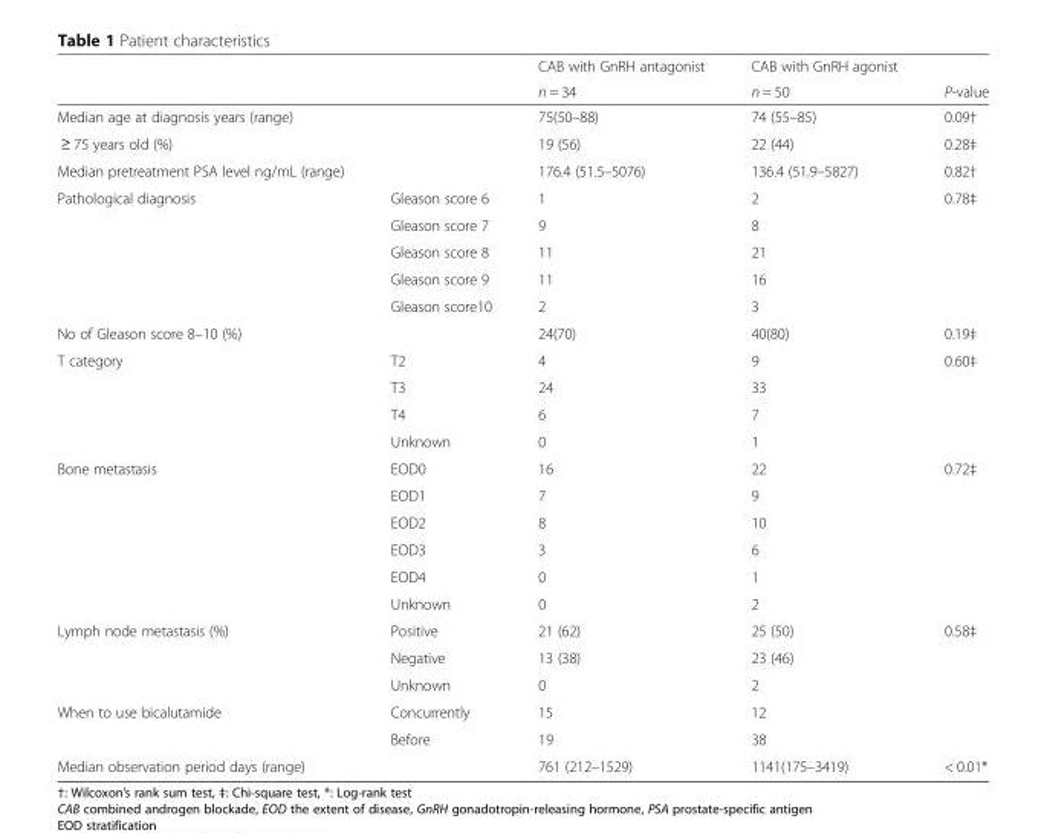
<table><thead><tr><td rowspan="2"></td><td rowspan="2"></td><td rowspan="2">CAB with GnRH antagonist n = 34</td><td rowspan="2">CAB with GnRH agonist n = 50</td><td rowspan="2">P-value</td></tr><tr></tr></thead><tbody><tr><td colspan="2">Median age at diagnosis years (range)</td><td>75(50–88)</td><td>74 (55–85)</td><td>0.09†</td></tr><tr><td>≥ 75 years old (%)</td><td></td><td>19 (56)</td><td>22 (44)</td><td>0.28‡</td></tr><tr><td>Median pretreatment PSA level ng/mL (range)</td><td></td><td>176.4 (51.5–5076)</td><td>136.4 (51.9–5827)</td><td>0.82†</td></tr><tr><td rowspan="5">Pathological diagnosis</td><td>Gleason score 6</td><td>1</td><td>2</td><td rowspan="5">0.78‡</td></tr><tr><td>Gleason score 7</td><td>9</td><td>8</td></tr><tr><td>Gleason score 8</td><td>11</td><td>21</td></tr><tr><td>Gleason score 9</td><td>11</td><td>16</td></tr><tr><td>Gleason score10</td><td>2</td><td>3</td></tr><tr><td>No of Gleason score 8–10 (%)</td><td></td><td>24(70)</td><td>40(80)</td><td>0.19‡</td></tr><tr><td rowspan="4">T category</td><td>T2</td><td>4</td><td>9</td><td rowspan="4">0.60‡</td></tr><tr><td>T3</td><td>24</td><td>33</td></tr><tr><td>T4</td><td>6</td><td>7</td></tr><tr><td>Unknown</td><td>0</td><td>1</td></tr><tr><td rowspan="6">Bone metastasis</td><td>EOD0</td><td>16</td><td>22</td><td rowspan="6">0.72‡</td></tr><tr><td>EOD1</td><td>7</td><td>9</td></tr><tr><td>EOD2</td><td>8</td><td>10</td></tr><tr><td>EOD3</td><td>3</td><td>6</td></tr><tr><td>EOD4</td><td>0</td><td>1</td></tr><tr><td>Unknown</td><td>0</td><td>2</td></tr><tr><td rowspan="3">Lymph node metastasis (%)</td><td>Positive</td><td>21 (62)</td><td>25 (50)</td><td>0.58‡</td></tr><tr><td>Negative</td><td>13 (38)</td><td>23 (46)</td><td></td></tr><tr><td>Unknown</td><td>0</td><td>2</td><td></td></tr><tr><td rowspan="2">When to use bicalutamide</td><td>Concurrently</td><td>15</td><td>12</td><td></td></tr><tr><td>Before</td><td>19</td><td>38</td><td></td></tr><tr><td>Median observation period days (range)</td><td></td><td>761 (212–1529)</td><td>1141(175–3419)</td><td>&lt; 0.01*</td></tr></tbody></table>